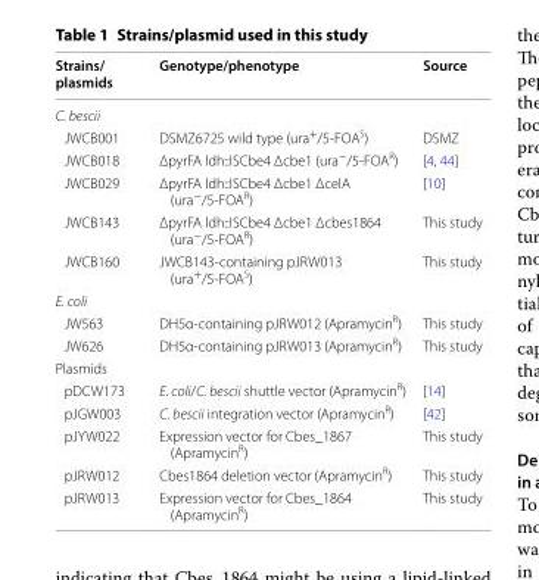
<table><thead><tr><td>Strains/ plasmids</td><td>Genotype/phenotype</td><td>Source</td></tr></thead><tbody><tr><td colspan="3">C. bescii</td></tr><tr><td>JWCB001</td><td>DSMZ6725 wild type (ura<sup>+</sup>/5‑FOA<sup>S</sup>)</td><td>DSMZ</td></tr><tr><td>JWCB018</td><td>ΔpyrFA ldh::ISCbe4 Δcbe1 (ura<sup>−</sup>/5‑FOA<sup>R</sup>)</td><td>[4, 44]</td></tr><tr><td>JWCB029</td><td>ΔpyrFA ldh::ISCbe4 Δcbe1 ΔcelA (ura<sup>−</sup>/5‑FOA<sup>R</sup>)</td><td>[10]</td></tr><tr><td>JWCB143</td><td>ΔpyrFA ldh::ISCbe4 Δcbe1 Δcbes1864 (ura<sup>−</sup>/5‑FOA<sup>R</sup>)</td><td>This study</td></tr><tr><td>JWCB160</td><td>JWCB143‑containing pJRW013 (ura<sup>+</sup>/5‑FOA<sup>S</sup>)</td><td>This study</td></tr><tr><td colspan="3">E. coli</td></tr><tr><td>JW563</td><td>DH5α‑containing pJRW012 (Apramycin<sup>R</sup>)</td><td>This study</td></tr><tr><td>JW626</td><td>DH5α‑containing pJRW013 (Apramycin<sup>R</sup>)</td><td>This study</td></tr><tr><td colspan="3">Plasmids</td></tr><tr><td>pDCW173</td><td>E. coli/C. bescii shuttle vector (Apramycin<sup>R</sup>)</td><td>[14]</td></tr><tr><td>pJGW003</td><td>C. bescii integration vector (Apramycin<sup>R</sup>)</td><td>[42]</td></tr><tr><td>pJYW022</td><td>Expression vector for Cbes_1867 (Apramycin<sup>R</sup>)</td><td>This study</td></tr><tr><td>pJRW012</td><td>Cbes1864 deletion vector (Apramycin<sup>R</sup>)</td><td>This study</td></tr><tr><td>pJRW013</td><td>Expression vector for Cbes_1864 (Apramycin<sup>R</sup>)</td><td>This study</td></tr></tbody></table>